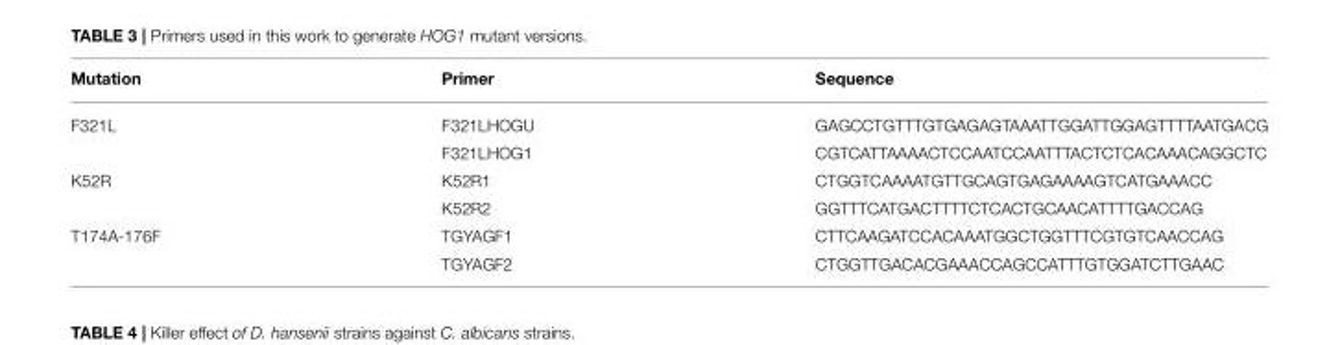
<table><thead><tr><td>Mutation</td><td>Primer</td><td>Sequence</td></tr></thead><tbody><tr><td rowspan="2">F321L</td><td>F321LHOGU</td><td>GAGCCTGTTTGTGAGAGTAAATTGGATTGGAGTTTTAATGACG</td></tr><tr><td>F321LHOG1</td><td>CGTCATTAAAACTCCAATCCAATTTACTCTCACAAACAGGCTC</td></tr><tr><td rowspan="2">K52R</td><td>K52R1</td><td>CTGGTCAAAATGTTGCAGTGAGAAAAGTCATGAAACC</td></tr><tr><td>K52R2</td><td>GGTTTCATGACTTTTCTCACTGCAACATTTTGACCAG</td></tr><tr><td rowspan="2">T174A-176F</td><td>TGYAGF1</td><td>CTTCAAGATCCACAAATGGCTGGTTTCGTGTCAACCAG</td></tr><tr><td>TGYAGF2</td><td>CTGGTTGACACGAAACCAGCCATTTGTGGATCTTGAAC</td></tr></tbody></table>